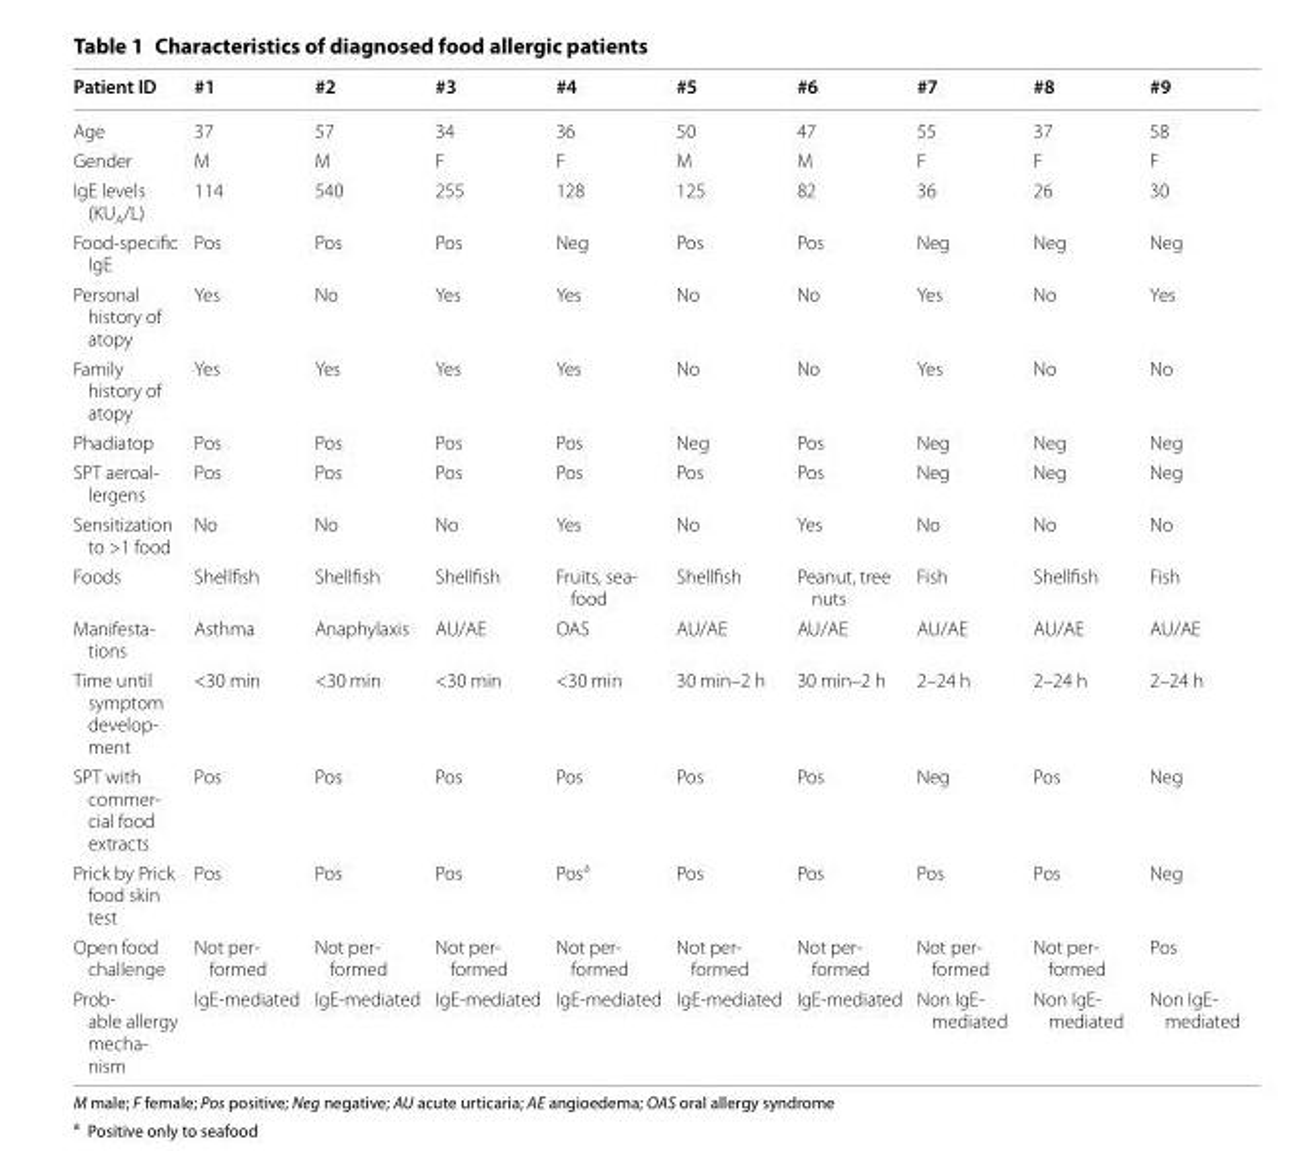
<table><thead><tr><td>Patient ID</td><td>#1</td><td>#2</td><td>#3</td><td>#4</td><td>#5</td><td>#6</td><td>#7</td><td>#8</td><td>#9</td></tr></thead><tbody><tr><td>Age</td><td>37</td><td>57</td><td>34</td><td>36</td><td>50</td><td>47</td><td>55</td><td>37</td><td>58</td></tr><tr><td>Gender</td><td>M</td><td>M</td><td>F</td><td>F</td><td>M</td><td>M</td><td>F</td><td>F</td><td>F</td></tr><tr><td>IgE levels (KU<sub>A</sub>/L)</td><td>114</td><td>540</td><td>255</td><td>128</td><td>125</td><td>82</td><td>36</td><td>26</td><td>30</td></tr><tr><td>Food‑specific IgE</td><td>Pos</td><td>Pos</td><td>Pos</td><td>Neg</td><td>Pos</td><td>Pos</td><td>Neg</td><td>Neg</td><td>Neg</td></tr><tr><td>Personal history of atopy</td><td>Yes</td><td>No</td><td>Yes</td><td>Yes</td><td>No</td><td>No</td><td>Yes</td><td>No</td><td>Yes</td></tr><tr><td>Family history of atopy</td><td>Yes</td><td>Yes</td><td>Yes</td><td>Yes</td><td>No</td><td>No</td><td>Yes</td><td>No</td><td>No</td></tr><tr><td>Phadiatop</td><td>Pos</td><td>Pos</td><td>Pos</td><td>Pos</td><td>Neg</td><td>Pos</td><td>Neg</td><td>Neg</td><td>Neg</td></tr><tr><td>SPT aeroal‑ lergens</td><td>Pos</td><td>Pos</td><td>Pos</td><td>Pos</td><td>Pos</td><td>Pos</td><td>Neg</td><td>Neg</td><td>Neg</td></tr><tr><td>Sensitization to &gt;1 food</td><td>No</td><td>No</td><td>No</td><td>Yes</td><td>No</td><td>Yes</td><td>No</td><td>No</td><td>No</td></tr><tr><td>Foods</td><td>Shellfish</td><td>Shellfish</td><td>Shellfish</td><td>Fruits, sea‑ food</td><td>Shellfish</td><td>Peanut, tree nuts</td><td>Fish</td><td>Shellfish</td><td>Fish</td></tr><tr><td>Manifesta‑ tions</td><td>Asthma</td><td>Anaphylaxis</td><td>AU/AE</td><td>OAS</td><td>AU/AE</td><td>AU/AE</td><td>AU/AE</td><td>AU/AE</td><td>AU/AE</td></tr><tr><td>Time until symptom develop‑ ment</td><td>&lt;30 min</td><td>&lt;30 min</td><td>&lt;30 min</td><td>&lt;30 min</td><td>30 min–2 h</td><td>30 min–2 h</td><td>2–24 h</td><td>2–24 h</td><td>2–24 h</td></tr><tr><td>SPT with commer‑ cial food extracts</td><td>Pos</td><td>Pos</td><td>Pos</td><td>Pos</td><td>Pos</td><td>Pos</td><td>Neg</td><td>Pos</td><td>Neg</td></tr><tr><td>Prick by Prick food skin test</td><td>Pos</td><td>Pos</td><td>Pos</td><td>Pos<sup>a</sup></td><td>Pos</td><td>Pos</td><td>Pos</td><td>Pos</td><td>Neg</td></tr><tr><td>Open food challenge</td><td>Not per‑ formed</td><td>Not per‑ formed</td><td>Not per‑ formed</td><td>Not per‑ formed</td><td>Not per‑ formed</td><td>Not per‑ formed</td><td>Not per‑ formed</td><td>Not per‑ formed</td><td>Pos</td></tr><tr><td>Prob‑ able allergy mecha‑ nism</td><td>IgE‑mediated</td><td>IgE‑mediated</td><td>IgE‑mediated</td><td>IgE‑mediated</td><td>IgE‑mediated</td><td>IgE‑mediated</td><td>Non IgE‑ mediated</td><td>Non IgE‑ mediated</td><td>Non IgE‑ mediated</td></tr></tbody></table>